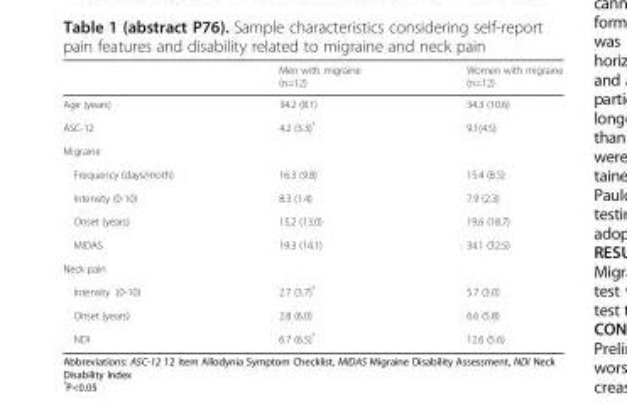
<table><thead><tr><td></td><td>Men with migraine (n=12)</td><td>Women with migraine (n=12)</td></tr></thead><tbody><tr><td>Age (years)</td><td>34.2 (8.1)</td><td>34.3 (10.6)</td></tr><tr><td>ASC-12</td><td>4.2 (3.3)*</td><td>9.1(4.5)</td></tr><tr><td colspan="3">Migraine</td></tr><tr><td>Frequency (days/moth)</td><td>16.3 (9.8)</td><td>15.4 (8.5)</td></tr><tr><td>Intensity (0-10)</td><td>8.3 (1.4)</td><td>7.9 (2.3)</td></tr><tr><td>Onset (years)</td><td>15.2 (13.0)</td><td>19.6 (18.7)</td></tr><tr><td>MIDAS</td><td>19.3 (14.1)</td><td>34.1 (32.5)</td></tr><tr><td colspan="3">Neck pain</td></tr><tr><td>Intensity (0-10)</td><td>2.7 (3.7)*</td><td>5.7 (3.0)</td></tr><tr><td>Onset (years)</td><td>2.8 (6.0)</td><td>6.6 (5.8)</td></tr><tr><td>NDI</td><td>6.7 (6.5)*</td><td>12.6 (5.6)</td></tr></tbody></table>